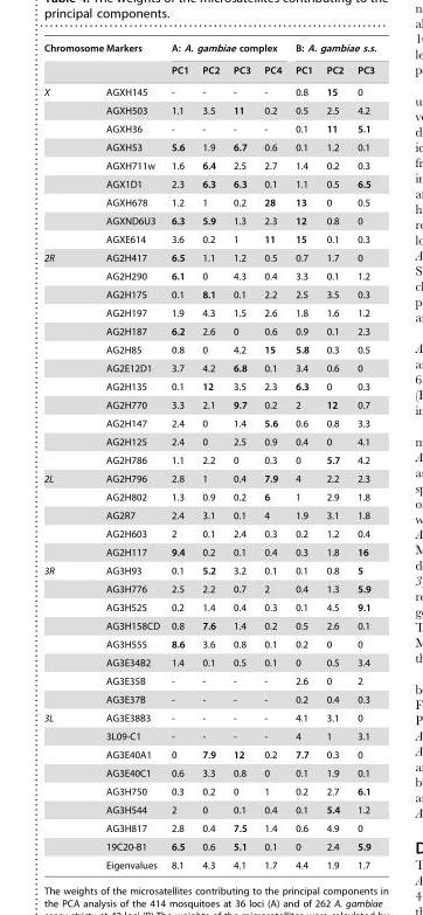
<table><thead><tr><td rowspan="2">Chromosome</td><td rowspan="2">Markers</td><td colspan="4">A: A. gambiae complex</td><td colspan="3">B: A. gambiae s.s.</td></tr><tr><td>PC1</td><td>PC2</td><td>PC3</td><td>PC4</td><td>PC1</td><td>PC2</td><td>PC3</td></tr></thead><tbody><tr><td rowspan="9">X</td><td>AGXH145</td><td>-</td><td>-</td><td>-</td><td>-</td><td>0.8</td><td>15</td><td>0</td></tr><tr><td>AGXH503</td><td>1.1</td><td>3.5</td><td>11</td><td>0.2</td><td>0.5</td><td>2.5</td><td>4.2</td></tr><tr><td>AGXH36</td><td>-</td><td>-</td><td>-</td><td>-</td><td>0.1</td><td>11</td><td>5.1</td></tr><tr><td>AGXH53</td><td>5.6</td><td>1.9</td><td>6.7</td><td>0.6</td><td>0.1</td><td>1.2</td><td>0.1</td></tr><tr><td>AGXH711w</td><td>1.6</td><td>6.4</td><td>2.5</td><td>2.7</td><td>1.4</td><td>0.2</td><td>0.3</td></tr><tr><td>AGX1D1</td><td>2.3</td><td>6.3</td><td>6.3</td><td>0.1</td><td>1.1</td><td>0.5</td><td>6.5</td></tr><tr><td>AGXH678</td><td>1.2</td><td>1</td><td>0.2</td><td>28</td><td>13</td><td>0</td><td>0.5</td></tr><tr><td>AGXND6U3</td><td>6.3</td><td>5.9</td><td>1.3</td><td>2.3</td><td>12</td><td>0.8</td><td>0</td></tr><tr><td>AGXE614</td><td>3.6</td><td>0.2</td><td>1</td><td>11</td><td>15</td><td>0.1</td><td>0.3</td></tr><tr><td rowspan="12">2R</td><td>AG2H417</td><td>6.5</td><td>1.1</td><td>1.2</td><td>0.5</td><td>0.7</td><td>1.7</td><td>0</td></tr><tr><td>AG2H290</td><td>6.1</td><td>0</td><td>4.3</td><td>0.4</td><td>3.3</td><td>0.1</td><td>1.2</td></tr><tr><td>AG2H175</td><td>0.1</td><td>8.1</td><td>0.1</td><td>2.2</td><td>2.5</td><td>3.5</td><td>0.3</td></tr><tr><td>AG2H197</td><td>1.9</td><td>4.3</td><td>1.5</td><td>2.6</td><td>1.8</td><td>1.6</td><td>1.2</td></tr><tr><td>AG2H187</td><td>6.2</td><td>2.6</td><td>0</td><td>0.6</td><td>0.9</td><td>0.1</td><td>2.3</td></tr><tr><td>AG2H85</td><td>0.8</td><td>0</td><td>4.2</td><td>15</td><td>5.8</td><td>0.3</td><td>0.5</td></tr><tr><td>AG2E12D1</td><td>3.7</td><td>4.2</td><td>6.8</td><td>0.1</td><td>3.4</td><td>0.6</td><td>0</td></tr><tr><td>AG2H135</td><td>0.1</td><td>12</td><td>3.5</td><td>2.3</td><td>6.3</td><td>0</td><td>0.3</td></tr><tr><td>AG2H770</td><td>3.3</td><td>2.1</td><td>9.7</td><td>0.2</td><td>2</td><td>12</td><td>0.7</td></tr><tr><td>AG2H147</td><td>2.4</td><td>0</td><td>1.4</td><td>5.6</td><td>0.6</td><td>0.8</td><td>3.3</td></tr><tr><td>AG2H125</td><td>2.4</td><td>0</td><td>2.5</td><td>0.9</td><td>0.4</td><td>0</td><td>4.1</td></tr><tr><td>AG2H786</td><td>1.1</td><td>2.2</td><td>0</td><td>0.3</td><td>0</td><td>5.7</td><td>4.2</td></tr><tr><td rowspan="5">2L</td><td>AG2H796</td><td>2.8</td><td>1</td><td>0.4</td><td>7.9</td><td>4</td><td>2.2</td><td>2.3</td></tr><tr><td>AG2H802</td><td>1.3</td><td>0.9</td><td>0.2</td><td>6</td><td>1</td><td>2.9</td><td>1.8</td></tr><tr><td>AG2R7</td><td>2.4</td><td>3.1</td><td>0.1</td><td>4</td><td>1.9</td><td>3.1</td><td>1.8</td></tr><tr><td>AG2H603</td><td>2</td><td>0.1</td><td>2.4</td><td>0.3</td><td>0.2</td><td>1.2</td><td>0.4</td></tr><tr><td>AG2H117</td><td>9.4</td><td>0.2</td><td>0.1</td><td>0.4</td><td>0.3</td><td>1.8</td><td>16</td></tr><tr><td rowspan="8">3R</td><td>AG3H93</td><td>0.1</td><td>5.2</td><td>3.2</td><td>0.1</td><td>0.1</td><td>0.8</td><td>5</td></tr><tr><td>AG3H776</td><td>2.5</td><td>2.2</td><td>0.7</td><td>2</td><td>0.4</td><td>1.3</td><td>5.9</td></tr><tr><td>AG3H525</td><td>0.2</td><td>1.4</td><td>0.4</td><td>0.3</td><td>0.1</td><td>4.5</td><td>9.1</td></tr><tr><td>AG3H158CD</td><td>0.8</td><td>7.6</td><td>1.4</td><td>0.2</td><td>0.5</td><td>2.6</td><td>0.1</td></tr><tr><td>AG3H555</td><td>8.6</td><td>3.6</td><td>0.8</td><td>0.1</td><td>0.2</td><td>0</td><td>0</td></tr><tr><td>AG3E34B2</td><td>1.4</td><td>0.1</td><td>0.5</td><td>0.1</td><td>0</td><td>0.5</td><td>3.4</td></tr><tr><td>AG3E35B</td><td>-</td><td>-</td><td>-</td><td>-</td><td>2.6</td><td>0</td><td>2</td></tr><tr><td>AG3E37B</td><td>-</td><td>-</td><td>-</td><td>-</td><td>0.2</td><td>0.4</td><td>0.3</td></tr><tr><td rowspan="9">3L</td><td>AG3E38B3</td><td>-</td><td>-</td><td>-</td><td>-</td><td>4.1</td><td>3.1</td><td>0</td></tr><tr><td>3L09-C1</td><td>-</td><td>-</td><td>-</td><td>-</td><td>4</td><td>1</td><td>3.1</td></tr><tr><td>AG3E40A1</td><td>0</td><td>7.9</td><td>12</td><td>0.2</td><td>7.7</td><td>0.3</td><td>0</td></tr><tr><td>AG3E40C1</td><td>0.6</td><td>3.3</td><td>0.8</td><td>0</td><td>0.1</td><td>1.9</td><td>0.1</td></tr><tr><td>AG3H750</td><td>0.3</td><td>0.2</td><td>0</td><td>1</td><td>0.2</td><td>2.7</td><td>6.1</td></tr><tr><td>AG3H544</td><td>2</td><td>0</td><td>0.1</td><td>0.4</td><td>0.1</td><td>5.4</td><td>1.2</td></tr><tr><td>AG3H817</td><td>2.8</td><td>0.4</td><td>7.5</td><td>1.4</td><td>0.6</td><td>4.9</td><td>0</td></tr><tr><td>19C20-B1</td><td>6.5</td><td>0.6</td><td>5.1</td><td>0.1</td><td>0</td><td>2.4</td><td>5.9</td></tr><tr><td>Eigenvalues</td><td>8.1</td><td>4.3</td><td>4.1</td><td>1.7</td><td>4.4</td><td>1.9</td><td>1.7</td></tr></tbody></table>